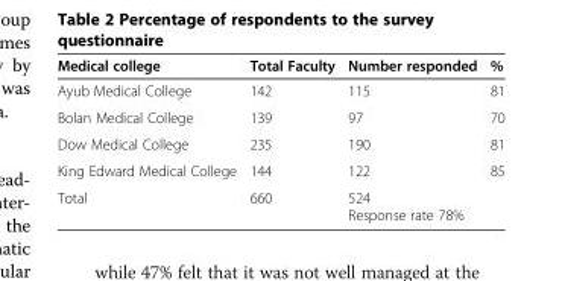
<table><thead><tr><td>Medical college</td><td>Total Faculty</td><td>Number responded</td><td>%</td></tr></thead><tbody><tr><td>Ayub Medical College</td><td>142</td><td>115</td><td>81</td></tr><tr><td>Bolan Medical College</td><td>139</td><td>97</td><td>70</td></tr><tr><td>Dow Medical College</td><td>235</td><td>190</td><td>81</td></tr><tr><td>King Edward Medical College</td><td>144</td><td>122</td><td>85</td></tr><tr><td>Total</td><td>660</td><td>524 Response rate 78%</td><td></td></tr></tbody></table>